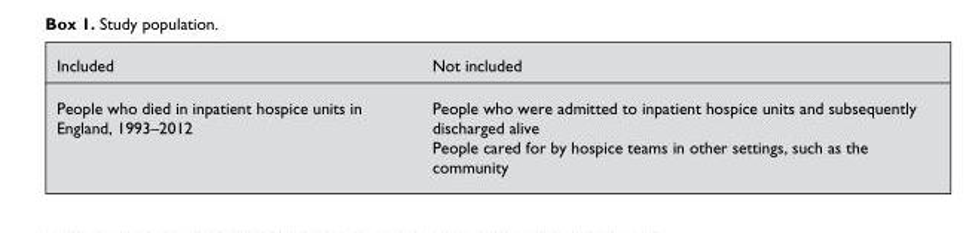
<table><thead><tr><td>Included</td><td>Not included</td></tr></thead><tbody><tr><td>People who died in inpatient hospice units in England, 1993–2012</td><td>People who were admitted to inpatient hospice units and subsequently discharged alive People cared for by hospice teams in other settings, such as the community</td></tr></tbody></table>